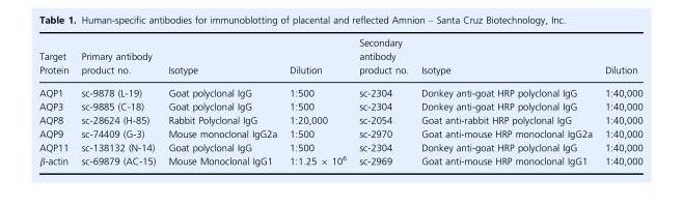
<table><thead><tr><td>Target Protein</td><td>Primary antibody product no.</td><td>Isotype</td><td>Dilution</td><td>Secondary antibody product no.</td><td>Isotype</td><td>Dilution</td></tr></thead><tbody><tr><td>AQP1</td><td>sc-9878 (L-19)</td><td>Goat polyclonal IgG</td><td>1:500</td><td>sc-2304</td><td>Donkey anti-goat HRP polyclonal IgG</td><td>1:40,000</td></tr><tr><td>AQP3</td><td>sc-9885 (C-18)</td><td>Goat polyclonal IgG</td><td>1:500</td><td>sc-2304</td><td>Donkey anti-goat HRP polyclonal IgG</td><td>1:40,000</td></tr><tr><td>AQP8</td><td>sc-28624 (H-85)</td><td>Rabbit Polyclonal IgG</td><td>1:20,000</td><td>sc-2054</td><td>Goat anti-rabbit HRP polyclonal IgG</td><td>1:40,000</td></tr><tr><td>AQP9</td><td>sc-74409 (G-3)</td><td>Mouse monoclonal IgG2a</td><td>1:500</td><td>sc-2970</td><td>Goat anti-mouse HRP monoclonal IgG2a</td><td>1:40,000</td></tr><tr><td>AQP11</td><td>sc-138132 (N-14)</td><td>Goat polyclonal IgG</td><td>1:500</td><td>sc-2304</td><td>Donkey anti-goat HRP polyclonal IgG</td><td>1:40,000</td></tr><tr><td>β-actin</td><td>sc-69879 (AC-15)</td><td>Mouse Monoclonal IgG1</td><td>1:1.25 × 10<sup>6</sup></td><td>sc-2969</td><td>Goat anti-mouse HRP monoclonal IgG1</td><td>1:40,000</td></tr></tbody></table>